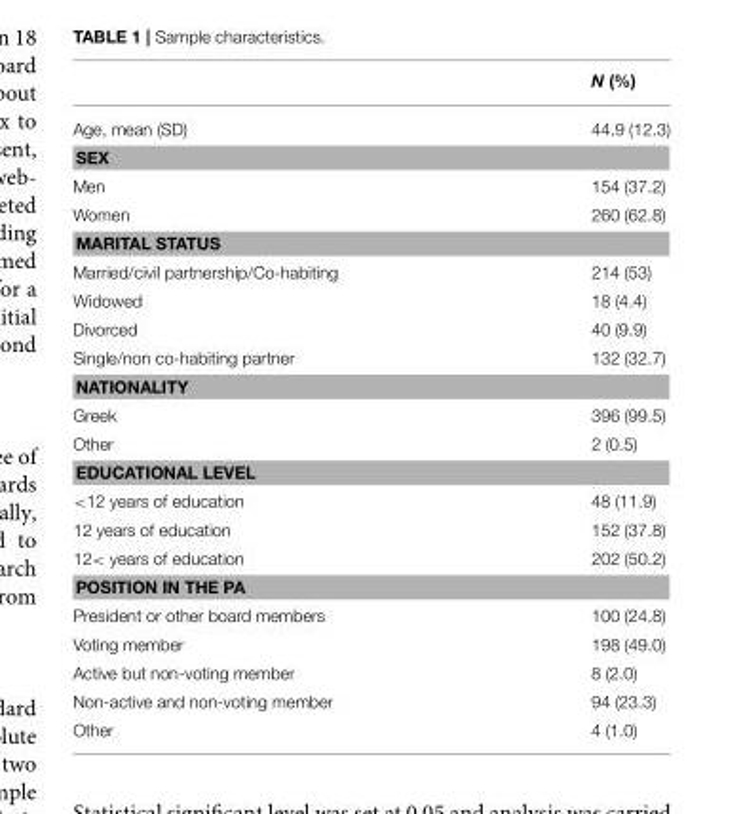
<table><thead><tr><td></td><td>N (%)</td></tr></thead><tbody><tr><td>Age, mean (SD)</td><td>44.9 (12.3)</td></tr><tr><td colspan="2">SEX</td></tr><tr><td>Men</td><td>154 (37.2)</td></tr><tr><td>Women</td><td>260 (62.8)</td></tr><tr><td colspan="2">MARITAL STATUS</td></tr><tr><td>Married/civil partnership/Co-habiting</td><td>214 (53)</td></tr><tr><td>Widowed</td><td>18 (4.4)</td></tr><tr><td>Divorced</td><td>40 (9.9)</td></tr><tr><td>Single/non co-habiting partner</td><td>132 (32.7)</td></tr><tr><td colspan="2">NATIONALITY</td></tr><tr><td>Greek</td><td>396 (99.5)</td></tr><tr><td>Other</td><td>2 (0.5)</td></tr><tr><td colspan="2">EDUCATIONAL LEVEL</td></tr><tr><td>&lt;12 years of education</td><td>48 (11.9)</td></tr><tr><td>12 years of education</td><td>152 (37.8)</td></tr><tr><td>12&lt; years of education</td><td>202 (50.2)</td></tr><tr><td colspan="2">POSITION IN THE PA</td></tr><tr><td>President or other board members</td><td>100 (24.8)</td></tr><tr><td>Voting member</td><td>198 (49.0)</td></tr><tr><td>Active but non-voting member</td><td>8 (2.0)</td></tr><tr><td>Non-active and non-voting member</td><td>94 (23.3)</td></tr><tr><td>Other</td><td>4 (1.0)</td></tr></tbody></table>